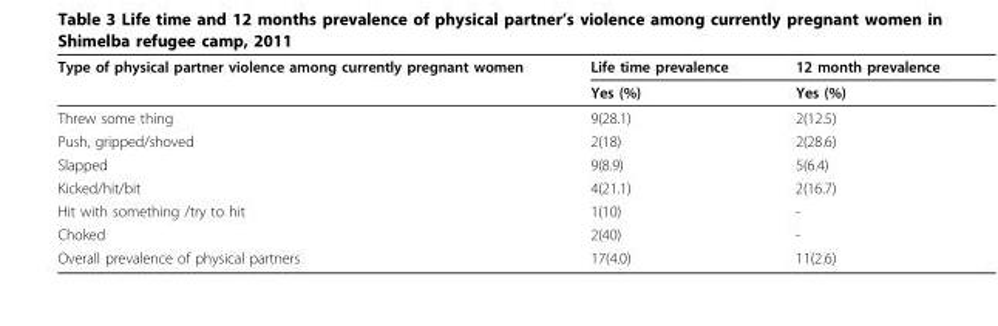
<table><thead><tr><td rowspan="2">Type of physical partner violence among currently pregnant women</td><td rowspan="2">Life time prevalence Yes (%)</td><td rowspan="2">12 month prevalence Yes (%)</td></tr><tr></tr></thead><tbody><tr><td>Threw some thing</td><td>9(28.1)</td><td>2(12.5)</td></tr><tr><td>Push, gripped/shoved</td><td>2(18)</td><td>2(28.6)</td></tr><tr><td>Slapped</td><td>9(8.9)</td><td>5(6.4)</td></tr><tr><td>Kicked/hit/bit</td><td>4(21.1)</td><td>2(16.7)</td></tr><tr><td>Hit with something /try to hit</td><td>1(10)</td><td>-</td></tr><tr><td>Choked</td><td>2(40)</td><td>-</td></tr><tr><td>Overall prevalence of physical partners</td><td>17(4.0)</td><td>11(2.6)</td></tr></tbody></table>